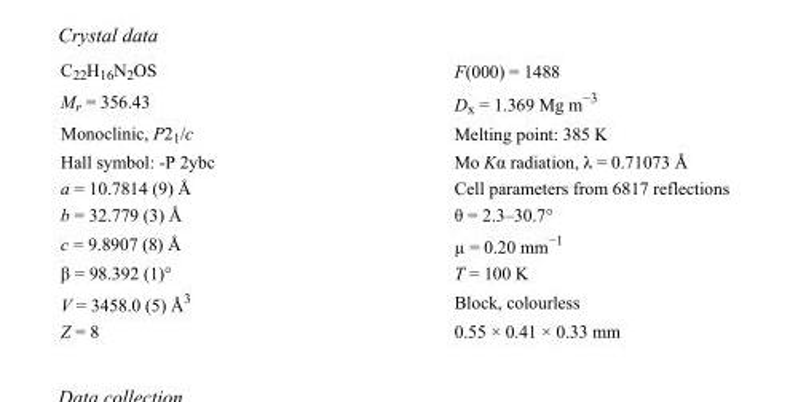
<table><tbody><tr><td>C<sub>22</sub>H<sub>16</sub>N<sub>2</sub>OS</td><td>F(000) = 1488</td></tr><tr><td>M<sub>r</sub> = 356.43</td><td>D<sub>x</sub> = 1.369 Mg m<sup>−3</sup></td></tr><tr><td>Monoclinic, P2<sub>1</sub>/c</td><td>Melting point: 385 K</td></tr><tr><td>Hall symbol: -P 2ybc</td><td>Mo Kα radiation, λ = 0.71073 Å</td></tr><tr><td>a = 10.7814 (9) Å</td><td>Cell parameters from 6817 reflections</td></tr><tr><td>b = 32.779 (3) Å</td><td>θ = 2.3–30.7°</td></tr><tr><td>c = 9.8907 (8) Å</td><td>µ = 0.20 mm<sup>−1</sup></td></tr><tr><td>β = 98.392 (1)°</td><td>T = 100 K</td></tr><tr><td>V = 3458.0 (5) Å<sup>3</sup></td><td>Block, colourless</td></tr><tr><td>Z = 8</td><td>0.55 × 0.41 × 0.33 mm</td></tr></tbody></table>